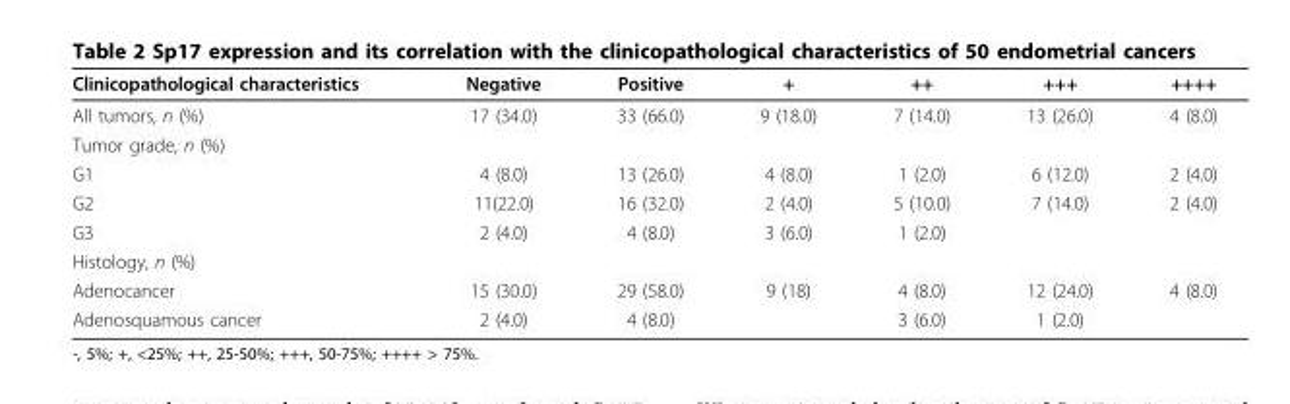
<table><thead><tr><td>Clinicopathological characteristics</td><td>Negative</td><td>Positive</td><td>+</td><td>++</td><td>+++</td><td>++++</td></tr></thead><tbody><tr><td>All tumors, n (%)</td><td>17 (34.0)</td><td>33 (66.0)</td><td>9 (18.0)</td><td>7 (14.0)</td><td>13 (26.0)</td><td>4 (8.0)</td></tr><tr><td colspan="7">Tumor grade, n (%)</td></tr><tr><td>G1</td><td>4 (8.0)</td><td>13 (26.0)</td><td>4 (8.0)</td><td>1 (2.0)</td><td>6 (12.0)</td><td>2 (4.0)</td></tr><tr><td>G2</td><td>11(22.0)</td><td>16 (32.0)</td><td>2 (4.0)</td><td>5 (10.0)</td><td>7 (14.0)</td><td>2 (4.0)</td></tr><tr><td>G3</td><td>2 (4.0)</td><td>4 (8.0)</td><td>3 (6.0)</td><td>1 (2.0)</td><td></td><td></td></tr><tr><td colspan="7">Histology, n (%)</td></tr><tr><td>Adenocancer</td><td>15 (30.0)</td><td>29 (58.0)</td><td>9 (18)</td><td>4 (8.0)</td><td>12 (24.0)</td><td>4 (8.0)</td></tr><tr><td>Adenosquamous cancer</td><td>2 (4.0)</td><td>4 (8.0)</td><td></td><td>3 (6.0)</td><td>1 (2.0)</td><td></td></tr></tbody></table>